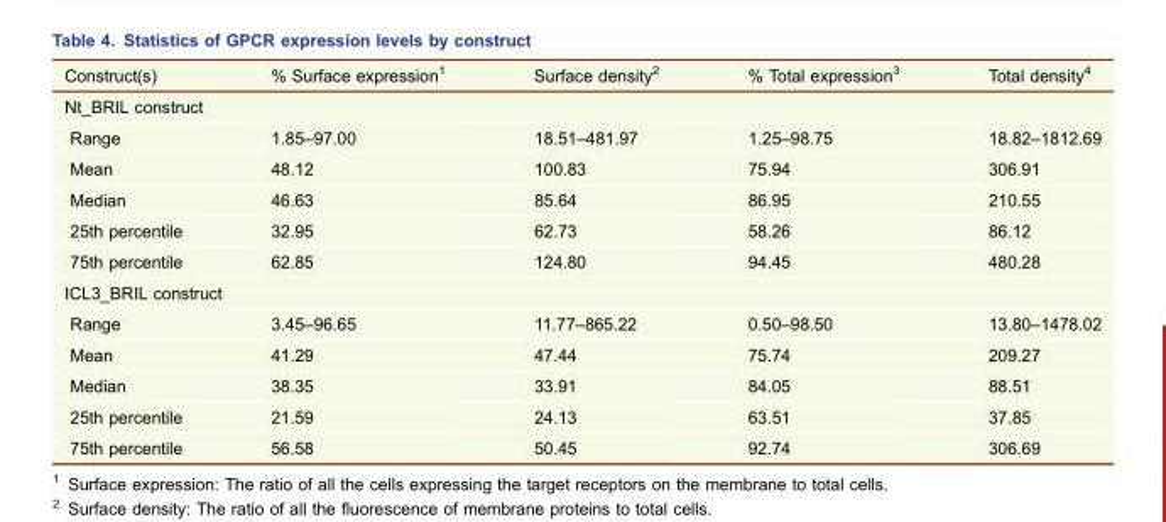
<table><thead><tr><td>Construct(s)</td><td>% Surface expression<sup>1</sup></td><td>Surface density<sup>2</sup></td><td>% Total expression<sup>3</sup></td><td>Total density<sup>4</sup></td></tr></thead><tbody><tr><td colspan="5">Nt_BRIL construct</td></tr><tr><td>Range</td><td>1.85–97.00</td><td>18.51–481.97</td><td>1.25–98.75</td><td>18.82–1812.69</td></tr><tr><td>Mean</td><td>48.12</td><td>100.83</td><td>75.94</td><td>306.91</td></tr><tr><td>Median</td><td>46.63</td><td>85.64</td><td>86.95</td><td>210.55</td></tr><tr><td>25th percentile</td><td>32.95</td><td>62.73</td><td>58.26</td><td>86.12</td></tr><tr><td>75th percentile</td><td>62.85</td><td>124.80</td><td>94.45</td><td>480.28</td></tr><tr><td colspan="5">ICL3_BRIL construct</td></tr><tr><td>Range</td><td>3.45–96.65</td><td>11.77–865.22</td><td>0.50–98.50</td><td>13.80–1478.02</td></tr><tr><td>Mean</td><td>41.29</td><td>47.44</td><td>75.74</td><td>209.27</td></tr><tr><td>Median</td><td>38.35</td><td>33.91</td><td>84.05</td><td>88.51</td></tr><tr><td>25th percentile</td><td>21.59</td><td>24.13</td><td>63.51</td><td>37.85</td></tr><tr><td>75th percentile</td><td>56.58</td><td>50.45</td><td>92.74</td><td>306.69</td></tr></tbody></table>